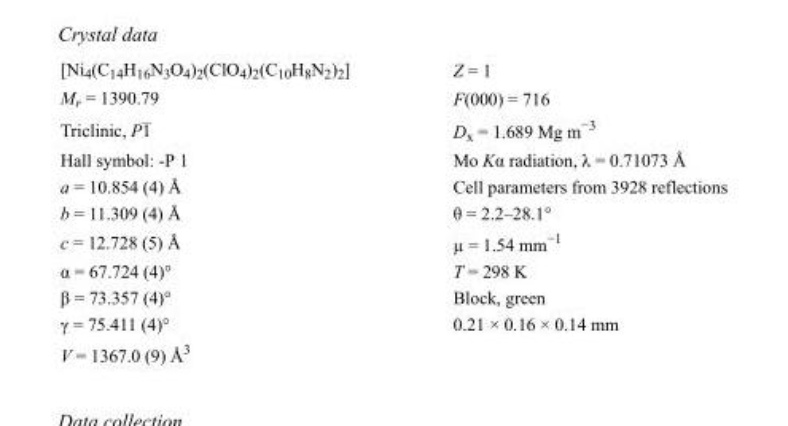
<table><tbody><tr><td>[Ni<sub>4</sub>(C<sub>14</sub>H<sub>16</sub>N<sub>3</sub>O<sub>4</sub>)<sub>2</sub>(ClO<sub>4</sub>)<sub>2</sub>(C<sub>10</sub>H<sub>8</sub>N<sub>2</sub>)<sub>2</sub>]</td><td>Z = 1</td></tr><tr><td>M<sub>r</sub> = 1390.79</td><td>F(000) = 716</td></tr><tr><td>Triclinic, P1</td><td>D<sub>x</sub> = 1.689 Mg m<sup>−3</sup></td></tr><tr><td>Hall symbol: -P 1</td><td>Mo Kα radiation, λ = 0.71073 Å</td></tr><tr><td>a = 10.854 (4) Å</td><td>Cell parameters from 3928 reflections</td></tr><tr><td>b = 11.309 (4) Å</td><td>θ = 2.2–28.1°</td></tr><tr><td>c = 12.728 (5) Å</td><td>µ = 1.54 mm<sup>−1</sup></td></tr><tr><td>α = 67.724 (4)°</td><td>T = 298 K</td></tr><tr><td>β = 73.357 (4)°</td><td>Block, green</td></tr><tr><td>γ = 75.411 (4)°</td><td>0.21 × 0.16 × 0.14 mm</td></tr><tr><td>V = 1367.0 (9) Å<sup>3</sup></td><td></td></tr></tbody></table>